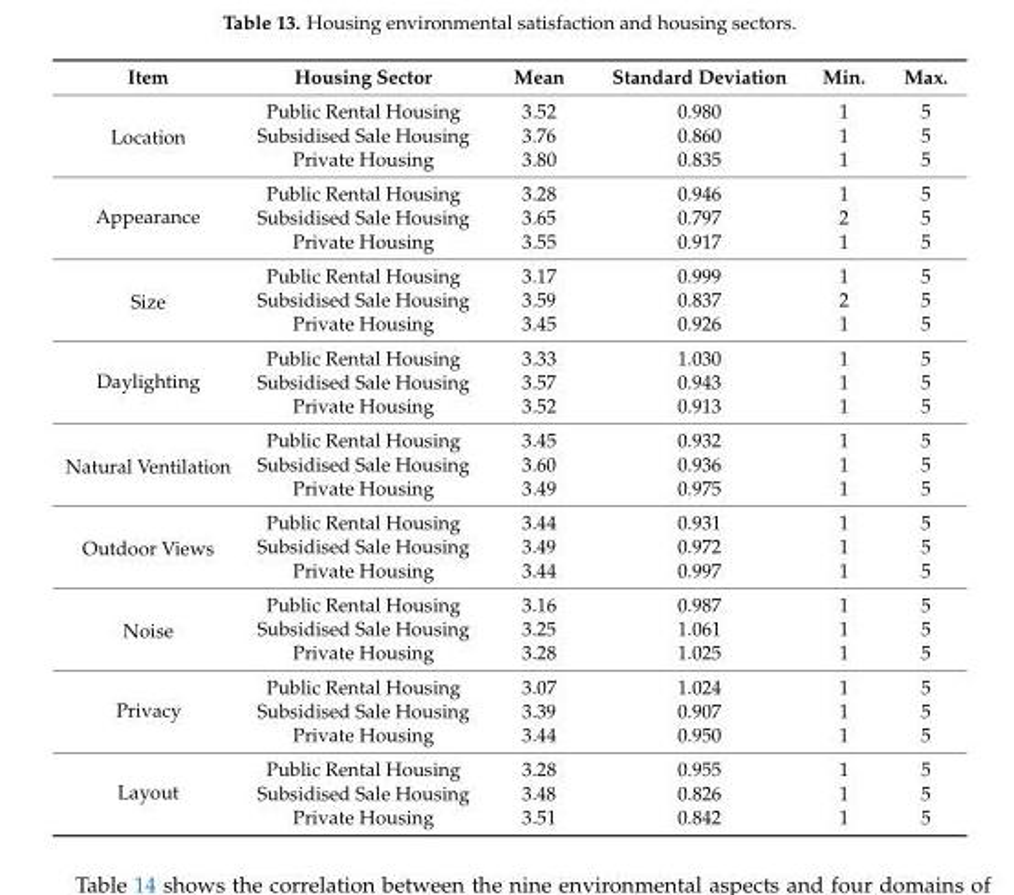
<table><thead><tr><td>Item</td><td>Housing Sector</td><td>Mean</td><td>Standard Deviation</td><td>Min.</td><td>Max.</td></tr></thead><tbody><tr><td rowspan="3">Location</td><td>Public Rental Housing</td><td>3.52</td><td>0.980</td><td>1</td><td>5</td></tr><tr><td>Subsidised Sale Housing</td><td>3.76</td><td>0.860</td><td>1</td><td>5</td></tr><tr><td>Private Housing</td><td>3.80</td><td>0.835</td><td>1</td><td>5</td></tr><tr><td rowspan="3">Appearance</td><td>Public Rental Housing</td><td>3.28</td><td>0.946</td><td>1</td><td>5</td></tr><tr><td>Subsidised Sale Housing</td><td>3.65</td><td>0.797</td><td>2</td><td>5</td></tr><tr><td>Private Housing</td><td>3.55</td><td>0.917</td><td>1</td><td>5</td></tr><tr><td rowspan="3">Size</td><td>Public Rental Housing</td><td>3.17</td><td>0.999</td><td>1</td><td>5</td></tr><tr><td>Subsidised Sale Housing</td><td>3.59</td><td>0.837</td><td>2</td><td>5</td></tr><tr><td>Private Housing</td><td>3.45</td><td>0.926</td><td>1</td><td>5</td></tr><tr><td rowspan="3">Daylighting</td><td>Public Rental Housing</td><td>3.33</td><td>1.030</td><td>1</td><td>5</td></tr><tr><td>Subsidised Sale Housing</td><td>3.57</td><td>0.943</td><td>1</td><td>5</td></tr><tr><td>Private Housing</td><td>3.52</td><td>0.913</td><td>1</td><td>5</td></tr><tr><td rowspan="3">Natural Ventilation</td><td>Public Rental Housing</td><td>3.45</td><td>0.932</td><td>1</td><td>5</td></tr><tr><td>Subsidised Sale Housing</td><td>3.60</td><td>0.936</td><td>1</td><td>5</td></tr><tr><td>Private Housing</td><td>3.49</td><td>0.975</td><td>1</td><td>5</td></tr><tr><td rowspan="3">Outdoor Views</td><td>Public Rental Housing</td><td>3.44</td><td>0.931</td><td>1</td><td>5</td></tr><tr><td>Subsidised Sale Housing</td><td>3.49</td><td>0.972</td><td>1</td><td>5</td></tr><tr><td>Private Housing</td><td>3.44</td><td>0.997</td><td>1</td><td>5</td></tr><tr><td rowspan="3">Noise</td><td>Public Rental Housing</td><td>3.16</td><td>0.987</td><td>1</td><td>5</td></tr><tr><td>Subsidised Sale Housing</td><td>3.25</td><td>1.061</td><td>1</td><td>5</td></tr><tr><td>Private Housing</td><td>3.28</td><td>1.025</td><td>1</td><td>5</td></tr><tr><td rowspan="3">Privacy</td><td>Public Rental Housing</td><td>3.07</td><td>1.024</td><td>1</td><td>5</td></tr><tr><td>Subsidised Sale Housing</td><td>3.39</td><td>0.907</td><td>1</td><td>5</td></tr><tr><td>Private Housing</td><td>3.44</td><td>0.950</td><td>1</td><td>5</td></tr><tr><td rowspan="3">Layout</td><td>Public Rental Housing</td><td>3.28</td><td>0.955</td><td>1</td><td>5</td></tr><tr><td>Subsidised Sale Housing</td><td>3.48</td><td>0.826</td><td>1</td><td>5</td></tr><tr><td>Private Housing</td><td>3.51</td><td>0.842</td><td>1</td><td>5</td></tr></tbody></table>